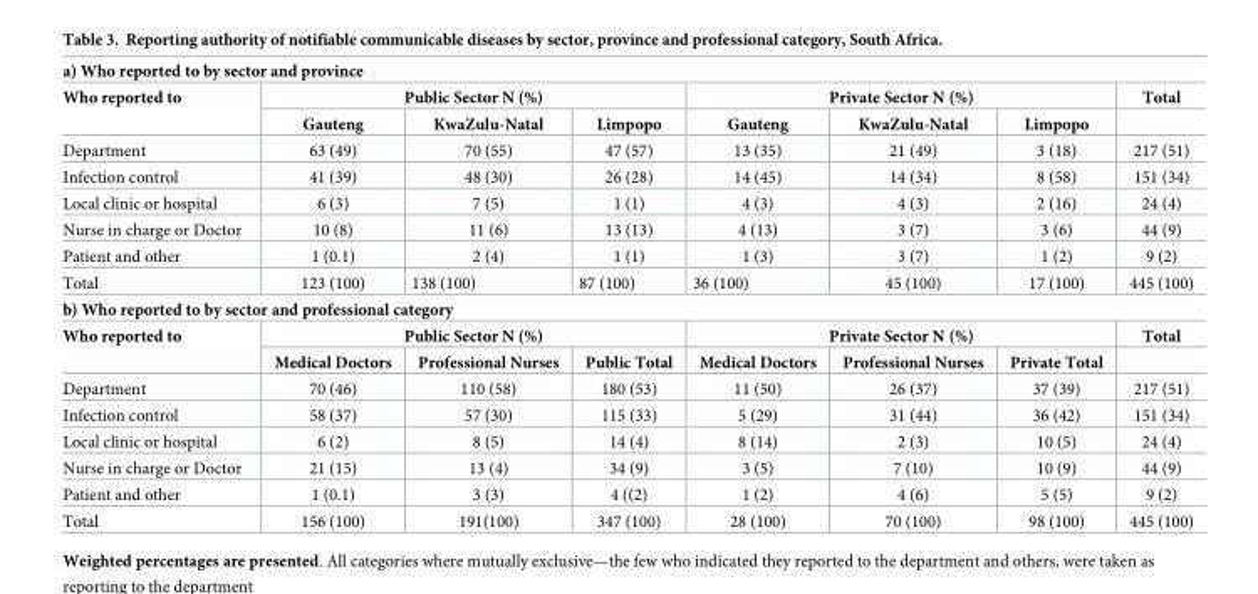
<table><tbody><tr><td colspan="8">a) Who reported to by sector and province</td></tr><tr><td rowspan="2">Who reported to</td><td colspan="3">Public Sector N (%)</td><td colspan="3">Private Sector N (%)</td><td>Total</td></tr><tr><td>Gauteng</td><td>KwaZulu-Natal</td><td>Limpopo</td><td>Gauteng</td><td>KwaZulu-Natal</td><td>Limpopo</td><td></td></tr><tr><td>Department</td><td>63 (49)</td><td>70 (55)</td><td>47 (57)</td><td>13 (35)</td><td>21 (49)</td><td>3 (18)</td><td>217 (51)</td></tr><tr><td>Infection control</td><td>41 (39)</td><td>48 (30)</td><td>26 (28)</td><td>14 (45)</td><td>14 (34)</td><td>8 (58)</td><td>151 (34)</td></tr><tr><td>Local clinic or hospital</td><td>6 (3)</td><td>7 (5)</td><td>1 (1)</td><td>4 (3)</td><td>4 (3)</td><td>2 (16)</td><td>24 (4)</td></tr><tr><td>Nurse in charge or Doctor</td><td>10 (8)</td><td>11 (6)</td><td>13 (13)</td><td>4 (13)</td><td>3 (7)</td><td>3 (6)</td><td>44 (9)</td></tr><tr><td>Patient and other</td><td>1 (0.1)</td><td>2 (4)</td><td>1 (1)</td><td>1 (3)</td><td>3 (7)</td><td>1 (2)</td><td>9 (2)</td></tr><tr><td>Total</td><td>123 (100)</td><td>138 (100)</td><td>87 (100)</td><td>36 (100)</td><td>45 (100)</td><td>17 (100)</td><td>445 (100)</td></tr><tr><td colspan="8">b) Who reported to by sector and professional category</td></tr><tr><td rowspan="2">Who reported to</td><td colspan="3">Public Sector N (%)</td><td colspan="3">Private Sector N (%)</td><td>Total</td></tr><tr><td>Medical Doctors</td><td>Professional Nurses</td><td>Public Total</td><td>Medical Doctors</td><td>Professional Nurses</td><td>Private Total</td><td></td></tr><tr><td>Department</td><td>70 (46)</td><td>110 (58)</td><td>180 (53)</td><td>11 (50)</td><td>26 (37)</td><td>37 (39)</td><td>217 (51)</td></tr><tr><td>Infection control</td><td>58 (37)</td><td>57 (30)</td><td>115 (33)</td><td>5 (29)</td><td>31 (44)</td><td>36 (42)</td><td>151 (34)</td></tr><tr><td>Local clinic or hospital</td><td>6 (2)</td><td>8 (5)</td><td>14 (4)</td><td>8 (14)</td><td>2 (3)</td><td>10 (5)</td><td>24 (4)</td></tr><tr><td>Nurse in charge or Doctor</td><td>21 (15)</td><td>13 (4)</td><td>34 (9)</td><td>3 (5)</td><td>7 (10)</td><td>10 (9)</td><td>44 (9)</td></tr><tr><td>Patient and other</td><td>1 (0.1)</td><td>3 (3)</td><td>4 ((2)</td><td>1 (2)</td><td>4 (6)</td><td>5 (5)</td><td>9 (2)</td></tr><tr><td>Total</td><td>156 (100)</td><td>191(100)</td><td>347 (100)</td><td>28 (100)</td><td>70 (100)</td><td>98 (100)</td><td>445 (100)</td></tr></tbody></table>